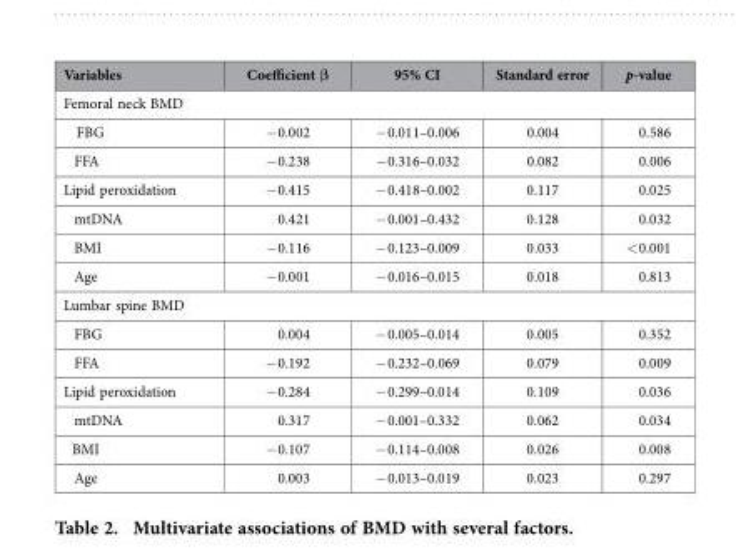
<table><thead><tr><td>Variables</td><td>Coefficient β</td><td>95% CI</td><td>Standard error</td><td>p-value</td></tr></thead><tbody><tr><td colspan="5">Femoral neck BMD</td></tr><tr><td>FBG</td><td>− 0.002</td><td>− 0.011–0.006</td><td>0.004</td><td>0.586</td></tr><tr><td>FFA</td><td>− 0.238</td><td>− 0.316–0.032</td><td>0.082</td><td>0.006</td></tr><tr><td>Lipid peroxidation</td><td>− 0.415</td><td>− 0.418–0.002</td><td>0.117</td><td>0.025</td></tr><tr><td>mtDNA</td><td>0.421</td><td>− 0.001–0.432</td><td>0.128</td><td>0.032</td></tr><tr><td>BMI</td><td>− 0.116</td><td>− 0.123–0.009</td><td>0.033</td><td>&lt; 0.001</td></tr><tr><td>Age</td><td>− 0.001</td><td>− 0.016–0.015</td><td>0.018</td><td>0.813</td></tr><tr><td colspan="5">Lumbar spine BMD</td></tr><tr><td>FBG</td><td>0.004</td><td>− 0.005–0.014</td><td>0.005</td><td>0.352</td></tr><tr><td>FFA</td><td>− 0.192</td><td>− 0.232–0.069</td><td>0.079</td><td>0.009</td></tr><tr><td>Lipid peroxidation</td><td>− 0.284</td><td>− 0.299–0.014</td><td>0.109</td><td>0.036</td></tr><tr><td>mtDNA</td><td>0.317</td><td>− 0.001–0.332</td><td>0.062</td><td>0.034</td></tr><tr><td>BMI</td><td>− 0.107</td><td>− 0.114–0.008</td><td>0.026</td><td>0.008</td></tr><tr><td>Age</td><td>0.003</td><td>− 0.013–0.019</td><td>0.023</td><td>0.297</td></tr></tbody></table>